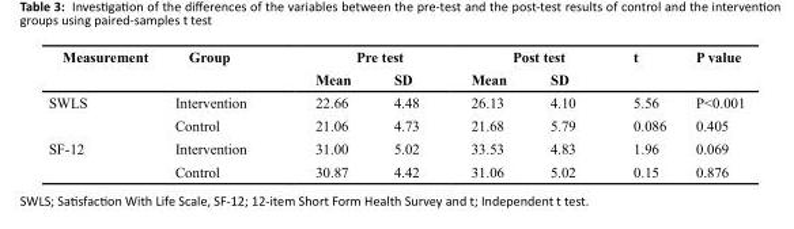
<table><thead><tr><td rowspan="2">Measurement</td><td rowspan="2">Group</td><td colspan="2">Pre test</td><td colspan="2">Post test</td><td rowspan="2">t</td><td rowspan="2">P value</td></tr><tr><td>Mean</td><td>SD</td><td>Mean</td><td>SD</td></tr></thead><tbody><tr><td rowspan="2">SWLS</td><td>Intervention</td><td>22.66</td><td>4.48</td><td>26.13</td><td>4.10</td><td>5.56</td><td>P&lt;0.001</td></tr><tr><td>Control</td><td>21.06</td><td>4.73</td><td>21.68</td><td>5.79</td><td>0.086</td><td>0.405</td></tr><tr><td rowspan="2">SF-12</td><td>Intervention</td><td>31.00</td><td>5.02</td><td>33.53</td><td>4.83</td><td>1.96</td><td>0.069</td></tr><tr><td>Control</td><td>30.87</td><td>4.42</td><td>31.06</td><td>5.02</td><td>0.15</td><td>0.876</td></tr></tbody></table>